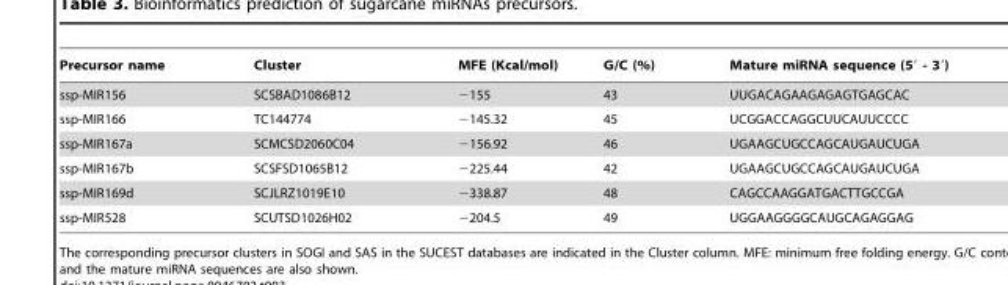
<table><thead><tr><td>Precursor name</td><td>Cluster</td><td>MFE (Kcal/mol)</td><td>G/C (%)</td><td>Mature miRNA sequence (5′ - 3′)</td></tr></thead><tbody><tr><td>ssp-MIR156</td><td>SCSBAD1086B12</td><td>−155</td><td>43</td><td>UUGACAGAAGAGAGTGAGCAC</td></tr><tr><td>ssp-MIR166</td><td>TC144774</td><td>−145.32</td><td>45</td><td>UCGGACCAGGCUUCAUUCCCC</td></tr><tr><td>ssp-MIR167a</td><td>SCMCSD2060C04</td><td>−156.92</td><td>46</td><td>UGAAGCUGCCAGCAUGAUCUGA</td></tr><tr><td>ssp-MIR167b</td><td>SCSFSD1065B12</td><td>−225.44</td><td>42</td><td>UGAAGCUGCCAGCAUGAUCUGA</td></tr><tr><td>ssp-MIR169d</td><td>SCJLRZ1019E10</td><td>−338.87</td><td>48</td><td>CAGCCAAGGATGACTTGCCGA</td></tr><tr><td>ssp-MIR528</td><td>SCUTSD1026H02</td><td>−204.5</td><td>49</td><td>UGGAAGGGGCAUGCAGAGGAG</td></tr></tbody></table>